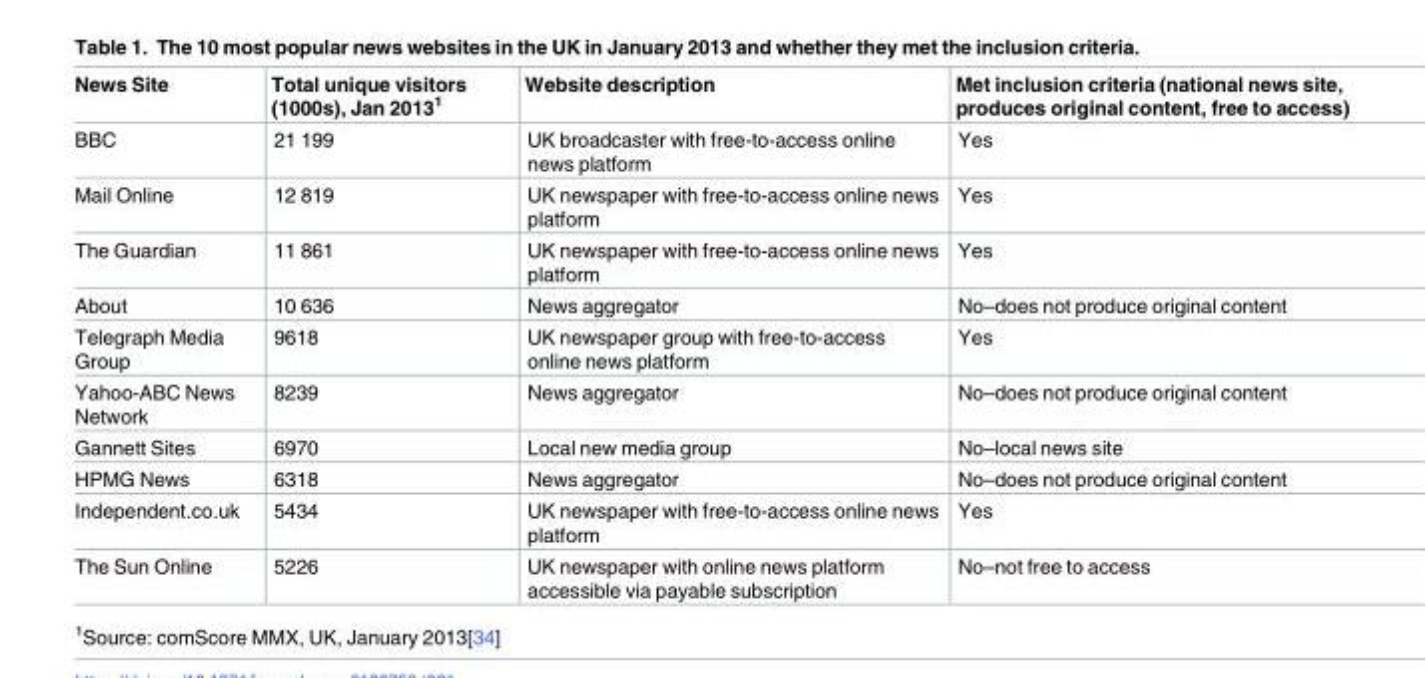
<table><thead><tr><td>News Site</td><td>Total unique visitors (1000s), Jan 2013<sup>1</sup></td><td>Website description</td><td>Met inclusion criteria (national news site, produces original content, free to access)</td></tr></thead><tbody><tr><td>BBC</td><td>21 199</td><td>UK broadcaster with free-to-access online news platform</td><td>Yes</td></tr><tr><td>Mail Online</td><td>12 819</td><td>UK newspaper with free-to-access online news platform</td><td>Yes</td></tr><tr><td>The Guardian</td><td>11 861</td><td>UK newspaper with free-to-access online news platform</td><td>Yes</td></tr><tr><td>About</td><td>10 636</td><td>News aggregator</td><td>No–does not produce original content</td></tr><tr><td>Telegraph Media Group</td><td>9618</td><td>UK newspaper group with free-to-access online news platform</td><td>Yes</td></tr><tr><td>Yahoo-ABC News Network</td><td>8239</td><td>News aggregator</td><td>No–does not produce original content</td></tr><tr><td>Gannett Sites</td><td>6970</td><td>Local new media group</td><td>No–local news site</td></tr><tr><td>HPMG News</td><td>6318</td><td>News aggregator</td><td>No–does not produce original content</td></tr><tr><td>Independent.co.uk</td><td>5434</td><td>UK newspaper with free-to-access online news platform</td><td>Yes</td></tr><tr><td>The Sun Online</td><td>5226</td><td>UK newspaper with online news platform accessible via payable subscription</td><td>No–not free to access</td></tr></tbody></table>